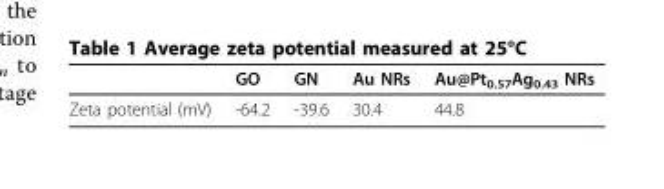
<table><thead><tr><td></td><td>GO</td><td>GN</td><td>Au NRs</td><td>Au@Pt<sub>0.57</sub>Ag<sub>0.43</sub> NRs</td></tr></thead><tbody><tr><td>Zeta potential (mV)</td><td>-64.2</td><td>-39.6</td><td>30.4</td><td>44.8</td></tr></tbody></table>